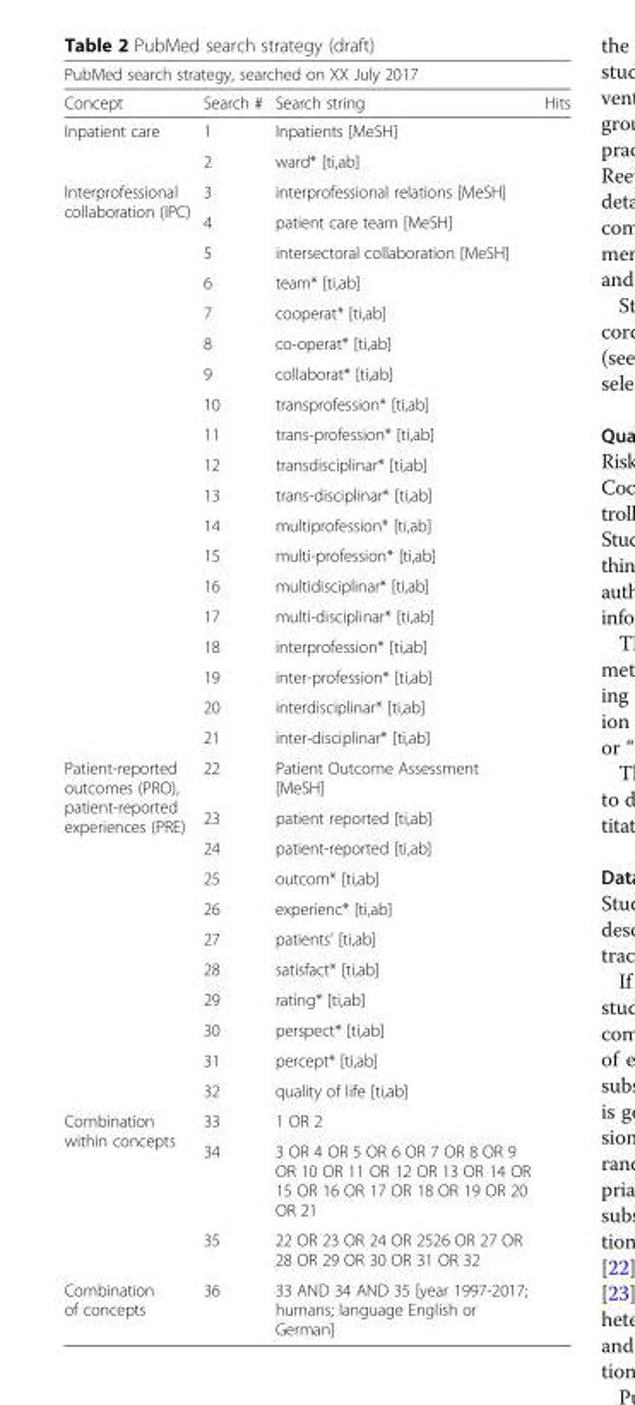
<table><thead><tr><td colspan="4">PubMed search strategy, searched on XX July 2017</td></tr><tr><td>Concept</td><td>Search #</td><td>Search string</td><td>Hits</td></tr></thead><tbody><tr><td rowspan="2">Inpatient care</td><td>1</td><td>Inpatients [MeSH]</td><td></td></tr><tr><td>2</td><td>ward* [ti,ab]</td><td></td></tr><tr><td rowspan="19">Interprofessional collaboration (IPC)</td><td>3</td><td>interprofessional relations [MeSH]</td><td></td></tr><tr><td>4</td><td>patient care team [MeSH]</td><td></td></tr><tr><td>5</td><td>intersectoral collaboration [MeSH]</td><td></td></tr><tr><td>6</td><td>team* [ti,ab]</td><td></td></tr><tr><td>7</td><td>cooperat* [ti,ab]</td><td></td></tr><tr><td>8</td><td>co-operat* [ti,ab]</td><td></td></tr><tr><td>9</td><td>collaborat* [ti,ab]</td><td></td></tr><tr><td>10</td><td>transprofession* [ti,ab]</td><td></td></tr><tr><td>11</td><td>trans-profession* [ti,ab]</td><td></td></tr><tr><td>12</td><td>transdisciplinar* [ti,ab]</td><td></td></tr><tr><td>13</td><td>trans-disciplinar* [ti,ab]</td><td></td></tr><tr><td>14</td><td>multiprofession* [ti,ab]</td><td></td></tr><tr><td>15</td><td>multi-profession* [ti,ab]</td><td></td></tr><tr><td>16</td><td>multidisciplinar* [ti,ab]</td><td></td></tr><tr><td>17</td><td>multi-disciplinar* [ti,ab]</td><td></td></tr><tr><td>18</td><td>interprofession* [ti,ab]</td><td></td></tr><tr><td>19</td><td>inter-profession* [ti,ab]</td><td></td></tr><tr><td>20</td><td>interdisciplinar* [ti,ab]</td><td></td></tr><tr><td>21</td><td>inter-disciplinar* [ti,ab]</td><td></td></tr><tr><td rowspan="11">Patient-reported outcomes (PRO), patient-reported experiences (PRE)</td><td>22</td><td>Patient Outcome Assessment [MeSH]</td><td></td></tr><tr><td>23</td><td>patient reported [ti,ab]</td><td></td></tr><tr><td>24</td><td>patient-reported [ti,ab]</td><td></td></tr><tr><td>25</td><td>outcom* [ti,ab]</td><td></td></tr><tr><td>26</td><td>experienc* [ti,ab]</td><td></td></tr><tr><td>27</td><td>patients’ [ti,ab]</td><td></td></tr><tr><td>28</td><td>satisfact* [ti,ab]</td><td></td></tr><tr><td>29</td><td>rating* [ti,ab]</td><td></td></tr><tr><td>30</td><td>perspect* [ti,ab]</td><td></td></tr><tr><td>31</td><td>percept* [ti,ab]</td><td></td></tr><tr><td>32</td><td>quality of life [ti,ab]</td><td></td></tr><tr><td rowspan="3">Combination within concepts</td><td>33</td><td>1 OR 2</td><td></td></tr><tr><td>34</td><td>3 OR 4 OR 5 OR 6 OR 7 OR 8 OR 9 OR 10 OR 11 OR 12 OR 13 OR 14 OR 15 OR 16 OR 17 OR 18 OR 19 OR 20 OR 21</td><td></td></tr><tr><td>35</td><td>22 OR 23 OR 24 OR 2526 OR 27 OR 28 OR 29 OR 30 OR 31 OR 32</td><td></td></tr><tr><td>Combination of concepts</td><td>36</td><td>33 AND 34 AND 35 [year 1997-2017; humans; language English or German]</td><td></td></tr></tbody></table>